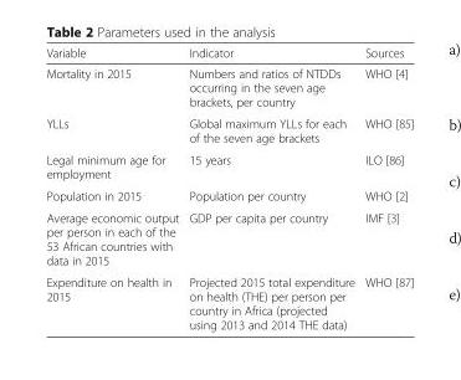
<table><thead><tr><td>Variable</td><td>Indicator</td><td>Sources</td></tr></thead><tbody><tr><td>Mortality in 2015</td><td>Numbers and ratios of NTDDs occurring in the seven age brackets, per country</td><td>WHO [4]</td></tr><tr><td>YLLs</td><td>Global maximum YLLs for each of the seven age brackets</td><td>WHO [85]</td></tr><tr><td>Legal minimum age for employment</td><td>15 years</td><td>ILO [86]</td></tr><tr><td>Population in 2015</td><td>Population per country</td><td>WHO [2]</td></tr><tr><td>Average economic output per person in each of the 53 African countries with data in 2015</td><td>GDP per capita per country</td><td>IMF [3]</td></tr><tr><td>Expenditure on health in 2015</td><td>Projected 2015 total expenditure on health (THE) per person per country in Africa (projected using 2013 and 2014 THE data)</td><td>WHO [87]</td></tr></tbody></table>